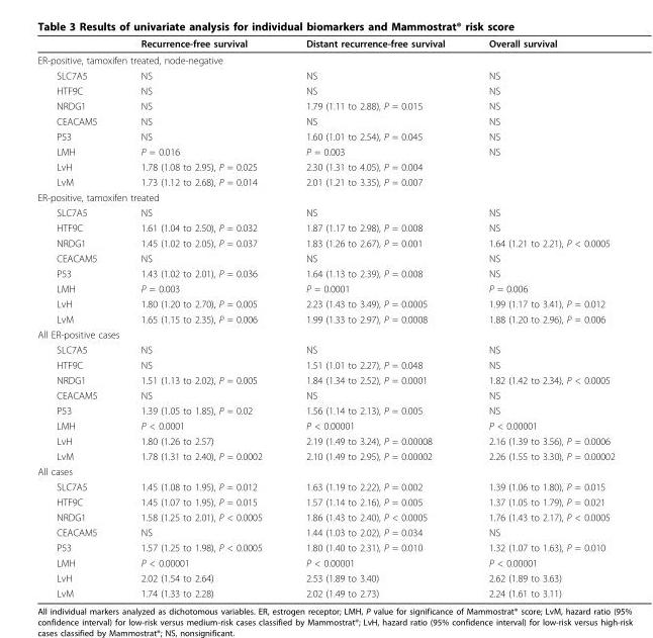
<table><thead><tr><td></td><td>Recurrence-free survival</td><td>Distant recurrence-free survival</td><td>Overall survival</td></tr></thead><tbody><tr><td colspan="4">ER-positive, tamoxifen treated, node-negative</td></tr><tr><td>SLC7A5</td><td>NS</td><td>NS</td><td>NS</td></tr><tr><td>HTF9C</td><td>NS</td><td>NS</td><td>NS</td></tr><tr><td>NRDG1</td><td>NS</td><td>1.79 (1.11 to 2.88), P = 0.015</td><td>NS</td></tr><tr><td>CEACAM5</td><td>NS</td><td>NS</td><td>NS</td></tr><tr><td>P53</td><td>NS</td><td>1.60 (1.01 to 2.54), P = 0.045</td><td>NS</td></tr><tr><td>LMH</td><td>P = 0.016</td><td>P = 0.003</td><td>NS</td></tr><tr><td>LvH</td><td>1.78 (1.08 to 2.95), P = 0.025</td><td>2.30 (1.31 to 4.05), P = 0.004</td><td></td></tr><tr><td>LvM</td><td>1.73 (1.12 to 2.68), P = 0.014</td><td>2.01 (1.21 to 3.35), P = 0.007</td><td></td></tr><tr><td colspan="4">ER-positive, tamoxifen treated</td></tr><tr><td>SLC7A5</td><td>NS</td><td>NS</td><td>NS</td></tr><tr><td>HTF9C</td><td>1.61 (1.04 to 2.50), P = 0.032</td><td>1.87 (1.17 to 2.98), P = 0.008</td><td>NS</td></tr><tr><td>NRDG1</td><td>1.45 (1.02 to 2.05), P = 0.037</td><td>1.83 (1.26 to 2.67), P = 0.001</td><td>1.64 (1.21 to 2.21), P &lt; 0.0005</td></tr><tr><td>CEACAM5</td><td>NS</td><td>NS</td><td>NS</td></tr><tr><td>P53</td><td>1.43 (1.02 to 2.01), P = 0.036</td><td>1.64 (1.13 to 2.39), P = 0.008</td><td>NS</td></tr><tr><td>LMH</td><td>P = 0.003</td><td>P = 0.0001</td><td>P = 0.006</td></tr><tr><td>LvH</td><td>1.80 (1.20 to 2.70), P = 0.005</td><td>2.23 (1.43 to 3.49), P = 0.0005</td><td>1.99 (1.17 to 3.41), P = 0.012</td></tr><tr><td>LvM</td><td>1.65 (1.15 to 2.35), P = 0.006</td><td>1.99 (1.33 to 2.97), P = 0.0008</td><td>1.88 (1.20 to 2.96), P = 0.006</td></tr><tr><td colspan="4">All ER-positive cases</td></tr><tr><td>SLC7A5</td><td>NS</td><td>NS</td><td>NS</td></tr><tr><td>HTF9C</td><td>NS</td><td>1.51 (1.01 to 2.27), P = 0.048</td><td>NS</td></tr><tr><td>NRDG1</td><td>1.51 (1.13 to 2.02), P = 0.005</td><td>1.84 (1.34 to 2.52), P = 0.0001</td><td>1.82 (1.42 to 2.34), P &lt; 0.0005</td></tr><tr><td>CEACAM5</td><td>NS</td><td>NS</td><td>NS</td></tr><tr><td>P53</td><td>1.39 (1.05 to 1.85), P = 0.02</td><td>1.56 (1.14 to 2.13), P = 0.005</td><td>NS</td></tr><tr><td>LMH</td><td>P &lt; 0.0001</td><td>P &lt; 0.00001</td><td>P &lt; 0.00001</td></tr><tr><td>LvH</td><td>1.80 (1.26 to 2.57)</td><td>2.19 (1.49 to 3.24), P = 0.00008</td><td>2.16 (1.39 to 3.56), P = 0.0006</td></tr><tr><td>LvM</td><td>1.78 (1.31 to 2.40), P = 0.0002</td><td>2.10 (1.49 to 2.95), P = 0.00002</td><td>2.26 (1.55 to 3.30), P = 0.00002</td></tr><tr><td colspan="4">All cases</td></tr><tr><td>SLC7A5</td><td>1.45 (1.08 to 1.95), P = 0.012</td><td>1.63 (1.19 to 2.22), P = 0.002</td><td>1.39 (1.06 to 1.80), P = 0.015</td></tr><tr><td>HTF9C</td><td>1.45 (1.07 to 1.95), P = 0.015</td><td>1.57 (1.14 to 2.16), P = 0.005</td><td>1.37 (1.05 to 1.79), P = 0.021</td></tr><tr><td>NRDG1</td><td>1.58 (1.25 to 2.01), P &lt; 0.0005</td><td>1.86 (1.43 to 2.40), P &lt; 0.0005</td><td>1.76 (1.43 to 2.17), P &lt; 0.0005</td></tr><tr><td>CEACAM5</td><td>NS</td><td>1.44 (1.03 to 2.02), P = 0.034</td><td>NS</td></tr><tr><td>P53</td><td>1.57 (1.25 to 1.98), P &lt; 0.0005</td><td>1.80 (1.40 to 2.31), P = 0.010</td><td>1.32 (1.07 to 1.63), P = 0.010</td></tr><tr><td>LMH</td><td>P &lt; 0.00001</td><td>P &lt; 0.00001</td><td>P &lt; 0.00001</td></tr><tr><td>LvH</td><td>2.02 (1.54 to 2.64)</td><td>2.53 (1.89 to 3.40)</td><td>2.62 (1.89 to 3.63)</td></tr><tr><td>LvM</td><td>1.74 (1.33 to 2.28)</td><td>2.02 (1.49 to 2.73)</td><td>2.24 (1.61 to 3.11)</td></tr></tbody></table>